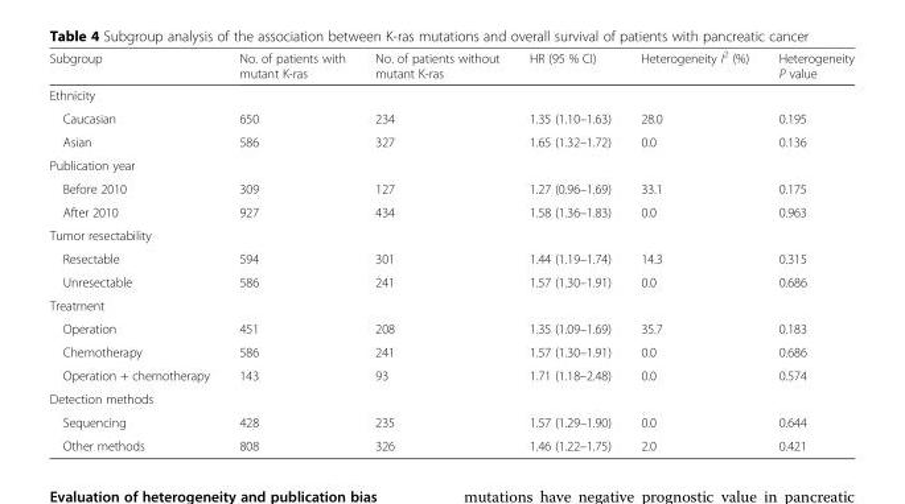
<table><thead><tr><td>Subgroup</td><td>No. of patients with mutant K-ras</td><td>No. of patients without mutant K-ras</td><td>HR (95 % CI)</td><td>Heterogeneity I<sup>2</sup> (%)</td><td>Heterogeneity P value</td></tr></thead><tbody><tr><td colspan="6">Ethnicity</td></tr><tr><td>Caucasian</td><td>650</td><td>234</td><td>1.35 (1.10–1.63)</td><td>28.0</td><td>0.195</td></tr><tr><td>Asian</td><td>586</td><td>327</td><td>1.65 (1.32–1.72)</td><td>0.0</td><td>0.136</td></tr><tr><td colspan="6">Publication year</td></tr><tr><td>Before 2010</td><td>309</td><td>127</td><td>1.27 (0.96–1.69)</td><td>33.1</td><td>0.175</td></tr><tr><td>After 2010</td><td>927</td><td>434</td><td>1.58 (1.36–1.83)</td><td>0.0</td><td>0.963</td></tr><tr><td colspan="6">Tumor resectability</td></tr><tr><td>Resectable</td><td>594</td><td>301</td><td>1.44 (1.19–1.74)</td><td>14.3</td><td>0.315</td></tr><tr><td>Unresectable</td><td>586</td><td>241</td><td>1.57 (1.30–1.91)</td><td>0.0</td><td>0.686</td></tr><tr><td colspan="6">Treatment</td></tr><tr><td>Operation</td><td>451</td><td>208</td><td>1.35 (1.09–1.69)</td><td>35.7</td><td>0.183</td></tr><tr><td>Chemotherapy</td><td>586</td><td>241</td><td>1.57 (1.30–1.91)</td><td>0.0</td><td>0.686</td></tr><tr><td>Operation + chemotherapy</td><td>143</td><td>93</td><td>1.71 (1.18–2.48)</td><td>0.0</td><td>0.574</td></tr><tr><td colspan="6">Detection methods</td></tr><tr><td>Sequencing</td><td>428</td><td>235</td><td>1.57 (1.29–1.90)</td><td>0.0</td><td>0.644</td></tr><tr><td>Other methods</td><td>808</td><td>326</td><td>1.46 (1.22–1.75)</td><td>2.0</td><td>0.421</td></tr></tbody></table>